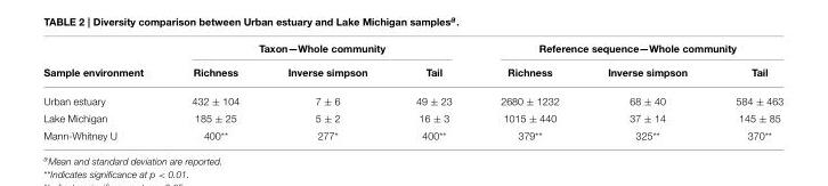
<table><thead><tr><td rowspan="2">Sample environment</td><td colspan="3">Taxon—Whole community</td><td colspan="3">Reference sequence—Whole community</td></tr><tr><td>Richness</td><td>Inverse simpson</td><td>Tail</td><td>Richness</td><td>Inverse simpson</td><td>Tail</td></tr></thead><tbody><tr><td>Urban estuary</td><td>432 ± 104</td><td>7 ± 6</td><td>49 ± 23</td><td>2680 ± 1232</td><td>68 ± 40</td><td>584 ± 463</td></tr><tr><td>Lake Michigan</td><td>185 ± 25</td><td>5 ± 2</td><td>16 ± 3</td><td>1015 ± 440</td><td>37 ± 14</td><td>145 ± 85</td></tr><tr><td>Mann-Whitney U</td><td>400**</td><td>277*</td><td>400**</td><td>379**</td><td>325**</td><td>370**</td></tr></tbody></table>